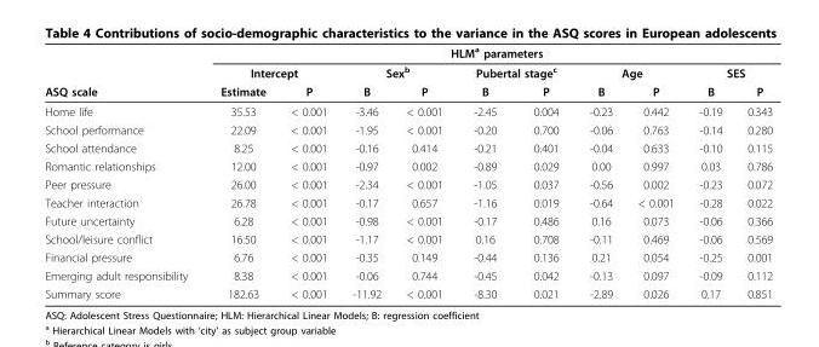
<table><thead><tr><td rowspan="3">ASQ scale</td><td colspan="10">HLM<sup>a</sup> parameters</td></tr><tr><td colspan="2">Intercept</td><td colspan="2">Sex<sup>b</sup></td><td colspan="2">Pubertal stage<sup>c</sup></td><td colspan="2">Age</td><td colspan="2">SES</td></tr><tr><td>Estimate</td><td>P</td><td>B</td><td>P</td><td>B</td><td>P</td><td>B</td><td>P</td><td>B</td><td>P</td></tr></thead><tbody><tr><td>Home life</td><td>35.53</td><td>&lt; 0.001</td><td>-3.46</td><td>&lt; 0.001</td><td>-2.45</td><td>0.004</td><td>-0.23</td><td>0.442</td><td>-0.19</td><td>0.343</td></tr><tr><td>School performance</td><td>22.09</td><td>&lt; 0.001</td><td>-1.95</td><td>&lt; 0.001</td><td>-0.20</td><td>0.700</td><td>-0.06</td><td>0.763</td><td>-0.14</td><td>0.280</td></tr><tr><td>School attendance</td><td>8.25</td><td>&lt; 0.001</td><td>-0.16</td><td>0.414</td><td>-0.21</td><td>0.401</td><td>-0.04</td><td>0.633</td><td>-0.10</td><td>0.115</td></tr><tr><td>Romantic relationships</td><td>12.00</td><td>&lt; 0.001</td><td>-0.97</td><td>0.002</td><td>-0.89</td><td>0.029</td><td>0.00</td><td>0.997</td><td>0.03</td><td>0.786</td></tr><tr><td>Peer pressure</td><td>26.00</td><td>&lt; 0.001</td><td>-2.34</td><td>&lt; 0.001</td><td>-1.05</td><td>0.037</td><td>-0.56</td><td>0.002</td><td>-0.23</td><td>0.072</td></tr><tr><td>Teacher interaction</td><td>26.78</td><td>&lt; 0.001</td><td>-0.17</td><td>0.657</td><td>-1.16</td><td>0.019</td><td>-0.64</td><td>&lt; 0.001</td><td>-0.28</td><td>0.022</td></tr><tr><td>Future uncertainty</td><td>6.28</td><td>&lt; 0.001</td><td>-0.98</td><td>&lt; 0.001</td><td>-0.17</td><td>0.486</td><td>0.16</td><td>0.073</td><td>-0.06</td><td>0.366</td></tr><tr><td>School/leisure conflict</td><td>16.50</td><td>&lt; 0.001</td><td>-1.17</td><td>&lt; 0.001</td><td>0.16</td><td>0.708</td><td>-0.11</td><td>0.469</td><td>-0.06</td><td>0.569</td></tr><tr><td>Financial pressure</td><td>6.76</td><td>&lt; 0.001</td><td>-0.35</td><td>0.149</td><td>-0.44</td><td>0.136</td><td>0.21</td><td>0.054</td><td>-0.25</td><td>0.001</td></tr><tr><td>Emerging adult responsibility</td><td>8.38</td><td>&lt; 0.001</td><td>-0.06</td><td>0.744</td><td>-0.45</td><td>0.042</td><td>-0.13</td><td>0.097</td><td>-0.09</td><td>0.112</td></tr><tr><td>Summary score</td><td>182.63</td><td>&lt; 0.001</td><td>-11.92</td><td>&lt; 0.001</td><td>-8.30</td><td>0.021</td><td>-2.89</td><td>0.026</td><td>0.17</td><td>0.851</td></tr></tbody></table>